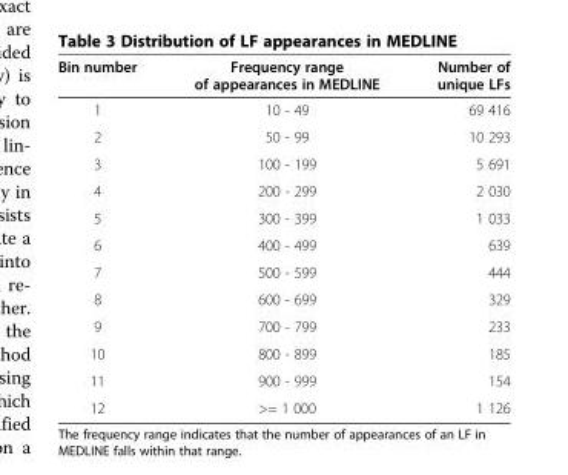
<table><thead><tr><td>Bin number</td><td>Frequency range of appearances in MEDLINE</td><td>Number of unique LFs</td></tr></thead><tbody><tr><td>1</td><td>10 - 49</td><td>69 416</td></tr><tr><td>2</td><td>50 - 99</td><td>10 293</td></tr><tr><td>3</td><td>100 - 199</td><td>5 691</td></tr><tr><td>4</td><td>200 - 299</td><td>2 030</td></tr><tr><td>5</td><td>300 - 399</td><td>1 033</td></tr><tr><td>6</td><td>400 - 499</td><td>639</td></tr><tr><td>7</td><td>500 - 599</td><td>444</td></tr><tr><td>8</td><td>600 - 699</td><td>329</td></tr><tr><td>9</td><td>700 - 799</td><td>233</td></tr><tr><td>10</td><td>800 - 899</td><td>185</td></tr><tr><td>11</td><td>900 - 999</td><td>154</td></tr><tr><td>12</td><td>&gt;= 1 000</td><td>1 126</td></tr></tbody></table>